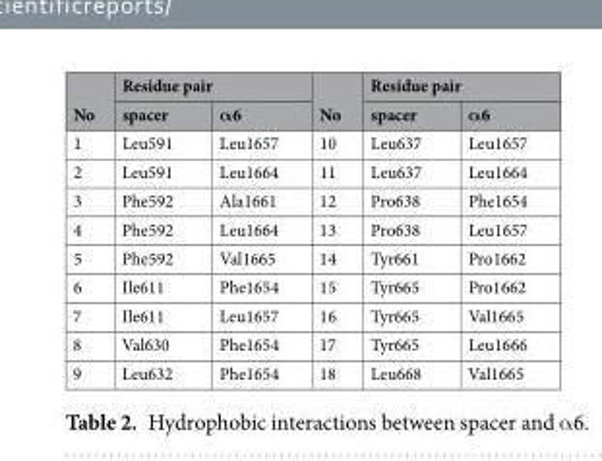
<table><thead><tr><td rowspan="2">No</td><td colspan="2">Residue pair</td><td rowspan="2">No</td><td colspan="2">Residue pair</td></tr><tr><td>spacer</td><td>α6</td><td>spacer</td><td>α6</td></tr></thead><tbody><tr><td>1</td><td>Leu591</td><td>Leu1657</td><td>10</td><td>Leu637</td><td>Leu1657</td></tr><tr><td>2</td><td>Leu591</td><td>Leu1664</td><td>11</td><td>Leu637</td><td>Leu1664</td></tr><tr><td>3</td><td>Phe592</td><td>Ala1661</td><td>12</td><td>Pro638</td><td>Phe1654</td></tr><tr><td>4</td><td>Phe592</td><td>Leu1664</td><td>13</td><td>Pro638</td><td>Leu1657</td></tr><tr><td>5</td><td>Phe592</td><td>Val1665</td><td>14</td><td>Tyr661</td><td>Pro1662</td></tr><tr><td>6</td><td>Ile611</td><td>Phe1654</td><td>15</td><td>Tyr665</td><td>Pro1662</td></tr><tr><td>7</td><td>Ile611</td><td>Leu1657</td><td>16</td><td>Tyr665</td><td>Val1665</td></tr><tr><td>8</td><td>Val630</td><td>Phe1654</td><td>17</td><td>Tyr665</td><td>Leu1666</td></tr><tr><td>9</td><td>Leu632</td><td>Phe1654</td><td>18</td><td>Leu668</td><td>Val1665</td></tr></tbody></table>